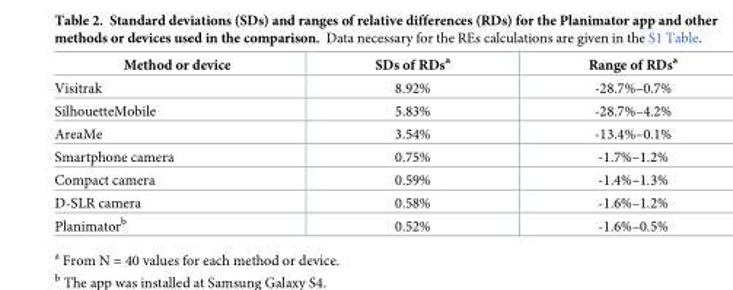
<table><thead><tr><td>Method or device</td><td>SDs of RDs<sup>a</sup></td><td>Range of RDs<sup>a</sup></td></tr></thead><tbody><tr><td>Visitrak</td><td>8.92%</td><td>-28.7%–0.7%</td></tr><tr><td>SilhouetteMobile</td><td>5.83%</td><td>-28.7%–4.2%</td></tr><tr><td>AreaMe</td><td>3.54%</td><td>-13.4%–0.1%</td></tr><tr><td>Smartphone camera</td><td>0.75%</td><td>-1.7%–1.2%</td></tr><tr><td>Compact camera</td><td>0.59%</td><td>-1.4%–1.3%</td></tr><tr><td>D-SLR camera</td><td>0.58%</td><td>-1.6%–1.2%</td></tr><tr><td>Planimator<sup>b</sup></td><td>0.52%</td><td>-1.6%–0.5%</td></tr></tbody></table>